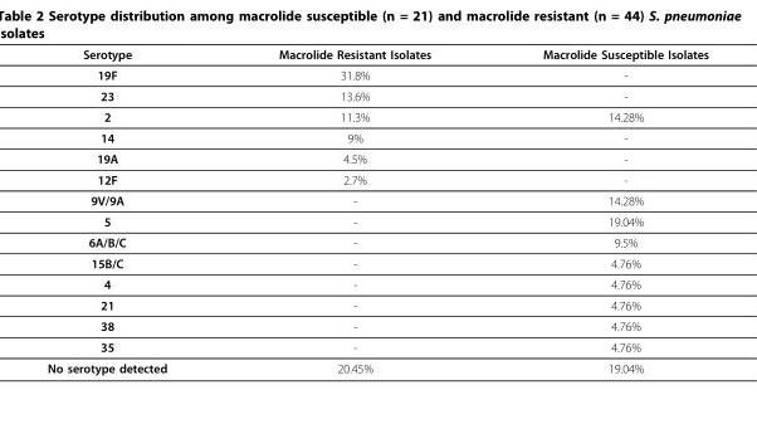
<table><thead><tr><td>Serotype</td><td>Macrolide Resistant Isolates</td><td>Macrolide Susceptible Isolates</td></tr></thead><tbody><tr><td>19F</td><td>31.8%</td><td>-</td></tr><tr><td>23</td><td>13.6%</td><td>-</td></tr><tr><td>2</td><td>11.3%</td><td>14.28%</td></tr><tr><td>14</td><td>9%</td><td>-</td></tr><tr><td>19A</td><td>4.5%</td><td>-</td></tr><tr><td>12F</td><td>2.7%</td><td>-</td></tr><tr><td>9V/9A</td><td>-</td><td>14.28%</td></tr><tr><td>5</td><td>-</td><td>19.04%</td></tr><tr><td>6A/B/C</td><td>-</td><td>9.5%</td></tr><tr><td>15B/C</td><td>-</td><td>4.76%</td></tr><tr><td>4</td><td>-</td><td>4.76%</td></tr><tr><td>21</td><td>-</td><td>4.76%</td></tr><tr><td>38</td><td>-</td><td>4.76%</td></tr><tr><td>35</td><td>-</td><td>4.76%</td></tr><tr><td>No serotype detected</td><td>20.45%</td><td>19.04%</td></tr></tbody></table>